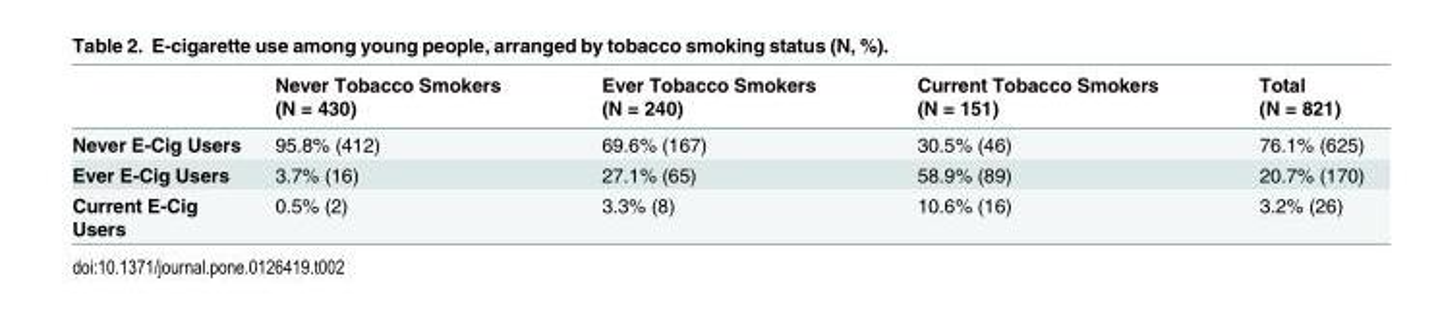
<table><thead><tr><td></td><td>Never Tobacco Smokers (N = 430)</td><td>Ever Tobacco Smokers (N = 240)</td><td>Current Tobacco Smokers (N = 151)</td><td>Total (N = 821)</td></tr></thead><tbody><tr><td>Never E-Cig Users</td><td>95.8% (412)</td><td>69.6% (167)</td><td>30.5% (46)</td><td>76.1% (625)</td></tr><tr><td>Ever E-Cig Users</td><td>3.7% (16)</td><td>27.1% (65)</td><td>58.9% (89)</td><td>20.7% (170)</td></tr><tr><td>Current E-Cig Users</td><td>0.5% (2)</td><td>3.3% (8)</td><td>10.6% (16)</td><td>3.2% (26)</td></tr></tbody></table>